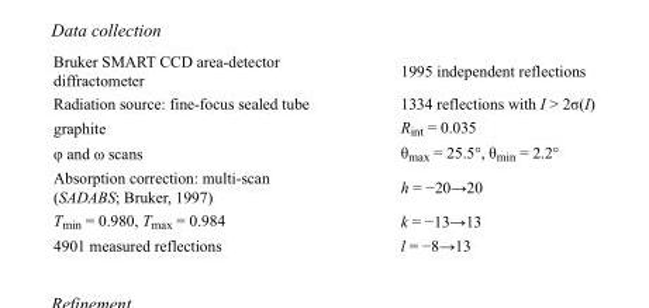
<table><tbody><tr><td>Bruker SMART CCD area-detector diffractometer</td><td>1995 independent reflections</td></tr><tr><td>Radiation source: fine-focus sealed tube</td><td>1334 reflections with I &gt; 2σ(I)</td></tr><tr><td>graphite</td><td>R<sub>int</sub> = 0.035</td></tr><tr><td>φ and ω scans</td><td>θ<sub>max</sub> = 25.5°, θ<sub>min</sub> = 2.2°</td></tr><tr><td>Absorption correction: multi-scan (SADABS; Bruker, 1997)</td><td>h = −20→20</td></tr><tr><td>T<sub>min</sub> = 0.980, T<sub>max</sub> = 0.984</td><td>k = −13→13</td></tr><tr><td>4901 measured reflections</td><td>l = −8→13</td></tr></tbody></table>